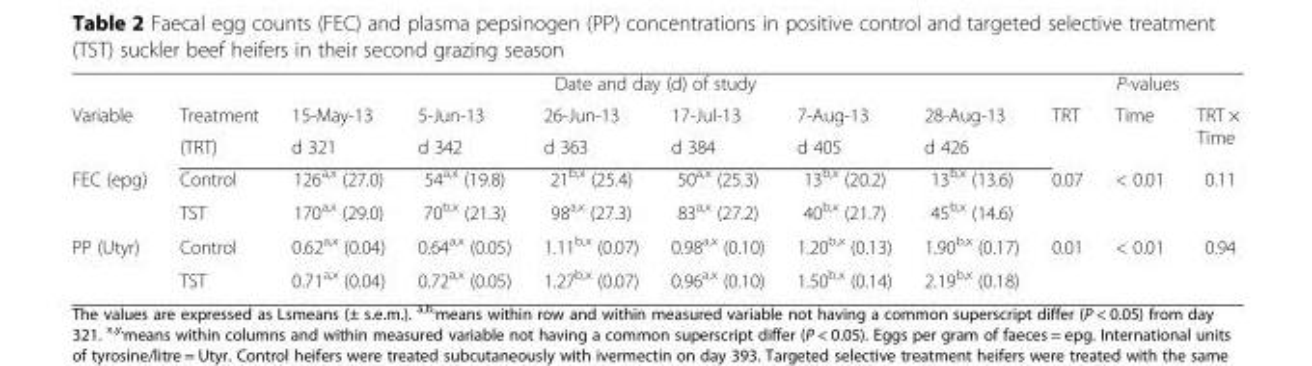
<table><thead><tr><td rowspan="3">Variable</td><td rowspan="3">Treatment (TRT)</td><td colspan="6">Date and day (d) of study</td><td colspan="3">P-values</td></tr><tr><td rowspan="2">15-May-13 d 321</td><td rowspan="2">5-Jun-13 d 342</td><td rowspan="2">26-Jun-13 d 363</td><td rowspan="2">17-Jul-13 d 384</td><td rowspan="2">7-Aug-13 d 405</td><td rowspan="2">28-Aug-13 d 426</td><td rowspan="2">TRT</td><td rowspan="2">Time</td><td rowspan="2">TRT × Time</td></tr><tr></tr></thead><tbody><tr><td rowspan="2">FEC (epg)</td><td>Control</td><td>126<sup>a,x</sup> (27.0)</td><td>54<sup>a,x</sup> (19.8)</td><td>21<sup>b,x</sup> (25.4)</td><td>50<sup>a,x</sup> (25.3)</td><td>13<sup>b,x</sup> (20.2)</td><td>13<sup>b,x</sup> (13.6)</td><td>0.07</td><td>&lt; 0.01</td><td>0.11</td></tr><tr><td>TST</td><td>170<sup>a,x</sup> (29.0)</td><td>70<sup>b,x</sup> (21.3)</td><td>98<sup>a,x</sup> (27.3)</td><td>83<sup>a,x</sup> (27.2)</td><td>40<sup>b,x</sup> (21.7)</td><td>45<sup>b,x</sup> (14.6)</td><td></td><td></td><td></td></tr><tr><td rowspan="2">PP (Utyr)</td><td>Control</td><td>0.62<sup>a,x</sup> (0.04)</td><td>0.64<sup>a,x</sup> (0.05)</td><td>1.11<sup>b,x</sup> (0.07)</td><td>0.98<sup>a,x</sup> (0.10)</td><td>1.20<sup>b,x</sup> (0.13)</td><td>1.90<sup>b,x</sup> (0.17)</td><td>0.01</td><td>&lt; 0.01</td><td>0.94</td></tr><tr><td>TST</td><td>0.71<sup>a,x</sup> (0.04)</td><td>0.72<sup>a,x</sup> (0.05)</td><td>1.27<sup>b,x</sup> (0.07)</td><td>0.96<sup>a,x</sup> (0.10)</td><td>1.50<sup>b,x</sup> (0.14)</td><td>2.19<sup>b,x</sup> (0.18)</td><td></td><td></td><td></td></tr></tbody></table>